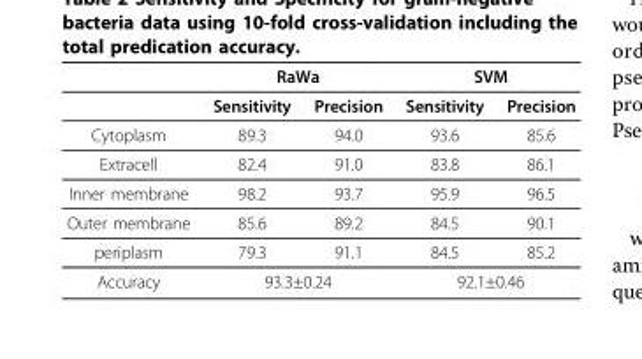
<table><thead><tr><td rowspan="2"></td><td colspan="2">RaWa</td><td colspan="2">SVM</td></tr><tr><td>Sensitivity</td><td>Precision</td><td>Sensitivity</td><td>Precision</td></tr></thead><tbody><tr><td>Cytoplasm</td><td>89.3</td><td>94.0</td><td>93.6</td><td>85.6</td></tr><tr><td>Extracell</td><td>82.4</td><td>91.0</td><td>83.8</td><td>86.1</td></tr><tr><td>Inner membrane</td><td>98.2</td><td>93.7</td><td>95.9</td><td>96.5</td></tr><tr><td>Outer membrane</td><td>85.6</td><td>89.2</td><td>84.5</td><td>90.1</td></tr><tr><td>periplasm</td><td>79.3</td><td>91.1</td><td>84.5</td><td>85.2</td></tr><tr><td>Accuracy</td><td colspan="2">93.3±0.24</td><td colspan="2">92.1±0.46</td></tr></tbody></table>